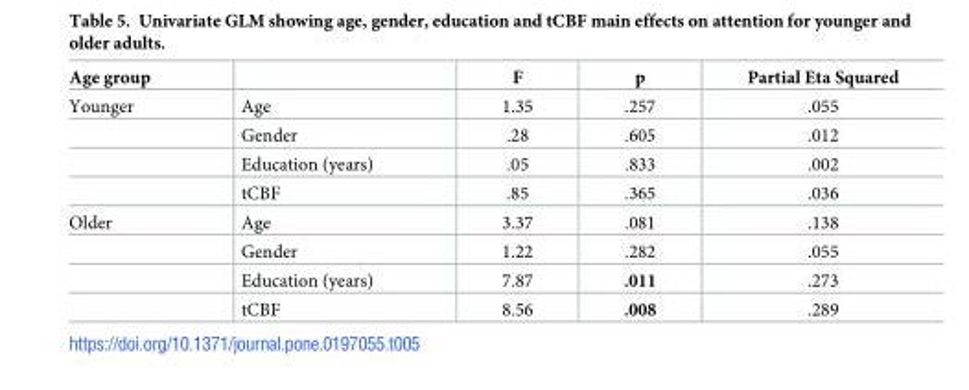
<table><thead><tr><td>Age group</td><td></td><td>F</td><td>p</td><td>Partial Eta Squared</td></tr></thead><tbody><tr><td rowspan="4">Younger</td><td>Age</td><td>1.35</td><td>.257</td><td>.055</td></tr><tr><td>Gender</td><td>.28</td><td>.605</td><td>.012</td></tr><tr><td>Education (years)</td><td>.05</td><td>.833</td><td>.002</td></tr><tr><td>tCBF</td><td>.85</td><td>.365</td><td>.036</td></tr><tr><td rowspan="4">Older</td><td>Age</td><td>3.37</td><td>.081</td><td>.138</td></tr><tr><td>Gender</td><td>1.22</td><td>.282</td><td>.055</td></tr><tr><td>Education (years)</td><td>7.87</td><td>.011</td><td>.273</td></tr><tr><td>tCBF</td><td>8.56</td><td>.008</td><td>.289</td></tr></tbody></table>